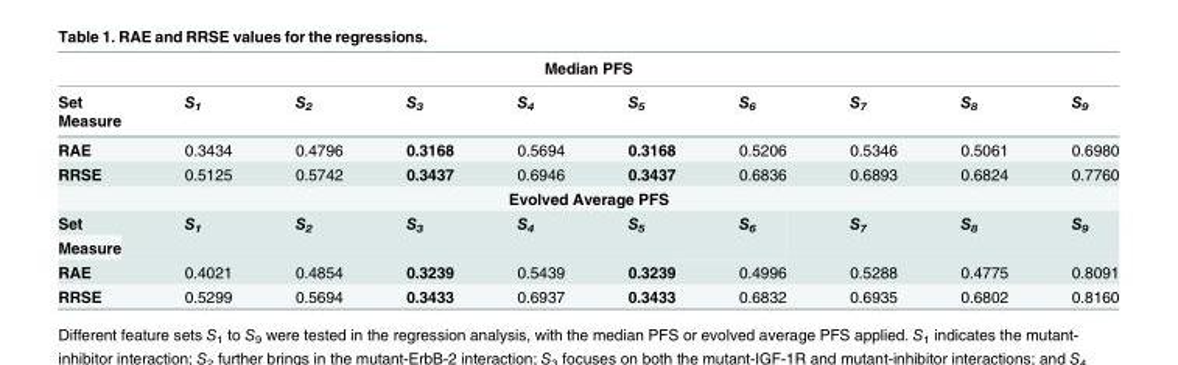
<table><thead><tr><td colspan="10">Median PFS</td></tr><tr><td rowspan="2">Set Measure</td><td rowspan="2">S<sub>1</sub></td><td rowspan="2">S<sub>2</sub></td><td rowspan="2">S<sub>3</sub></td><td rowspan="2">S<sub>4</sub></td><td rowspan="2">S<sub>5</sub></td><td rowspan="2">S<sub>6</sub></td><td rowspan="2">S<sub>7</sub></td><td rowspan="2">S<sub>8</sub></td><td rowspan="2">S<sub>9</sub></td></tr><tr></tr></thead><tbody><tr><td>RAE</td><td>0.3434</td><td>0.4796</td><td>0.3168</td><td>0.5694</td><td>0.3168</td><td>0.5206</td><td>0.5346</td><td>0.5061</td><td>0.6980</td></tr><tr><td>RRSE</td><td>0.5125</td><td>0.5742</td><td>0.3437</td><td>0.6946</td><td>0.3437</td><td>0.6836</td><td>0.6893</td><td>0.6824</td><td>0.7760</td></tr><tr><td colspan="10">Evolved Average PFS</td></tr><tr><td>Set</td><td rowspan="2">S<sub>1</sub></td><td rowspan="2">S<sub>2</sub></td><td rowspan="2">S<sub>3</sub></td><td rowspan="2">S<sub>4</sub></td><td rowspan="2">S<sub>5</sub></td><td rowspan="2">S<sub>6</sub></td><td rowspan="2">S<sub>7</sub></td><td rowspan="2">S<sub>8</sub></td><td rowspan="2">S<sub>9</sub></td></tr><tr><td>Measure</td></tr><tr><td>RAE</td><td>0.4021</td><td>0.4854</td><td>0.3239</td><td>0.5439</td><td>0.3239</td><td>0.4996</td><td>0.5288</td><td>0.4775</td><td>0.8091</td></tr><tr><td>RRSE</td><td>0.5299</td><td>0.5694</td><td>0.3433</td><td>0.6937</td><td>0.3433</td><td>0.6832</td><td>0.6935</td><td>0.6802</td><td>0.8160</td></tr></tbody></table>